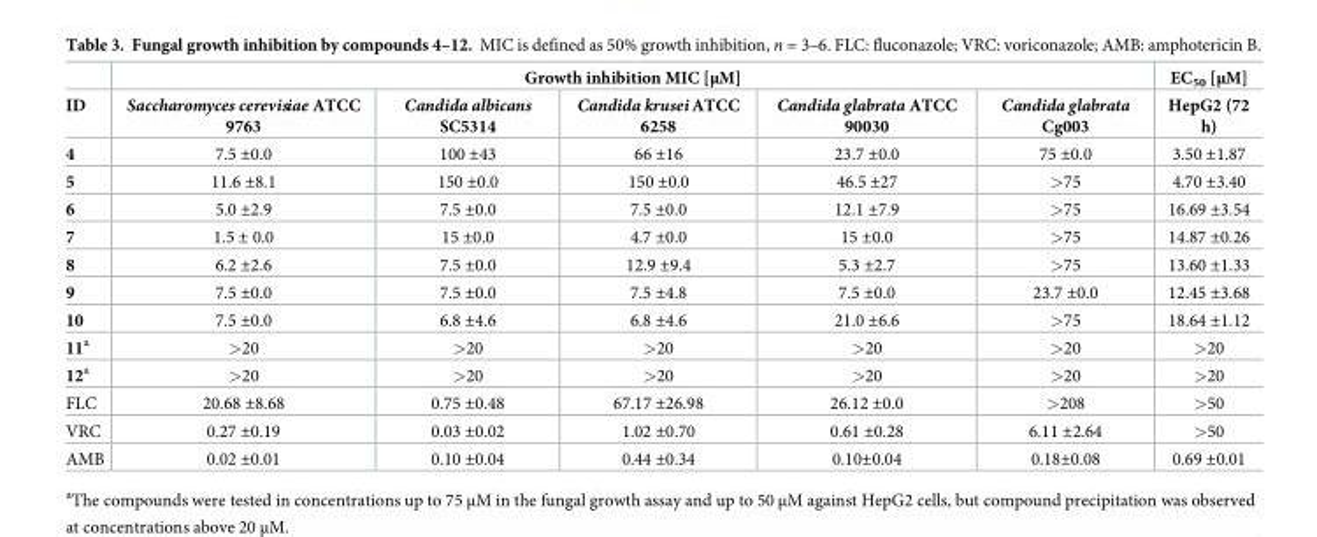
<table><thead><tr><td rowspan="2">ID</td><td colspan="5">Growth inhibition MIC [μM]</td><td rowspan="2">EC<sub>50</sub> [μM] HepG2 (72 h)</td></tr><tr><td>Saccharomyces cerevisiae ATCC 9763</td><td>Candida albicans SC5314</td><td>Candida krusei ATCC 6258</td><td>Candida glabrata ATCC 90030</td><td>Candida glabrata Cg003</td></tr></thead><tbody><tr><td>4</td><td>7.5 ±0.0</td><td>100 ±43</td><td>66 ±16</td><td>23.7 ±0.0</td><td>75 ±0.0</td><td>3.50 ±1.87</td></tr><tr><td>5</td><td>11.6 ±8.1</td><td>150 ±0.0</td><td>150 ±0.0</td><td>46.5 ±27</td><td>&gt;75</td><td>4.70 ±3.40</td></tr><tr><td>6</td><td>5.0 ±2.9</td><td>7.5 ±0.0</td><td>7.5 ±0.0</td><td>12.1 ±7.9</td><td>&gt;75</td><td>16.69 ±3.54</td></tr><tr><td>7</td><td>1.5 ± 0.0</td><td>15 ±0.0</td><td>4.7 ±0.0</td><td>15 ±0.0</td><td>&gt;75</td><td>14.87 ±0.26</td></tr><tr><td>8</td><td>6.2 ±2.6</td><td>7.5 ±0.0</td><td>12.9 ±9.4</td><td>5.3 ±2.7</td><td>&gt;75</td><td>13.60 ±1.33</td></tr><tr><td>9</td><td>7.5 ±0.0</td><td>7.5 ±0.0</td><td>7.5 ±4.8</td><td>7.5 ±0.0</td><td>23.7 ±0.0</td><td>12.45 ±3.68</td></tr><tr><td>10</td><td>7.5 ±0.0</td><td>6.8 ±4.6</td><td>6.8 ±4.6</td><td>21.0 ±6.6</td><td>&gt;75</td><td>18.64 ±1.12</td></tr><tr><td>11<sup>a</sup></td><td>&gt;20</td><td>&gt;20</td><td>&gt;20</td><td>&gt;20</td><td>&gt;20</td><td>&gt;20</td></tr><tr><td>12<sup>a</sup></td><td>&gt;20</td><td>&gt;20</td><td>&gt;20</td><td>&gt;20</td><td>&gt;20</td><td>&gt;20</td></tr><tr><td>FLC</td><td>20.68 ±8.68</td><td>0.75 ±0.48</td><td>67.17 ±26.98</td><td>26.12 ±0.0</td><td>&gt;208</td><td>&gt;50</td></tr><tr><td>VRC</td><td>0.27 ±0.19</td><td>0.03 ±0.02</td><td>1.02 ±0.70</td><td>0.61 ±0.28</td><td>6.11 ±2.64</td><td>&gt;50</td></tr><tr><td>AMB</td><td>0.02 ±0.01</td><td>0.10 ±0.04</td><td>0.44 ±0.34</td><td>0.10±0.04</td><td>0.18±0.08</td><td>0.69 ±0.01</td></tr></tbody></table>